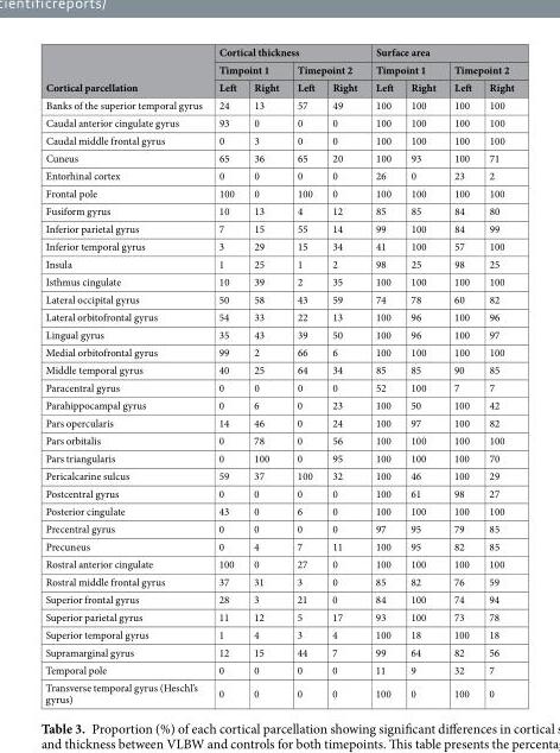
<table><thead><tr><td rowspan="3">Cortical parcellation</td><td colspan="4">Cortical thickness</td><td colspan="4">Surface area</td></tr><tr><td colspan="2">Timpoint 1</td><td colspan="2">Timepoint 2</td><td colspan="2">Timpoint 1</td><td colspan="2">Timepoint 2</td></tr><tr><td>Left</td><td>Right</td><td>Left</td><td>Right</td><td>Left</td><td>Right</td><td>Left</td><td>Right</td></tr></thead><tbody><tr><td>Banks of the superior temporal gyrus</td><td>24</td><td>13</td><td>57</td><td>49</td><td>100</td><td>100</td><td>100</td><td>100</td></tr><tr><td>Caudal anterior cingulate gyrus</td><td>93</td><td>0</td><td>0</td><td>0</td><td>100</td><td>100</td><td>100</td><td>100</td></tr><tr><td>Caudal middle frontal gyrus</td><td>0</td><td>3</td><td>0</td><td>0</td><td>100</td><td>100</td><td>100</td><td>100</td></tr><tr><td>Cuneus</td><td>65</td><td>36</td><td>65</td><td>20</td><td>100</td><td>93</td><td>100</td><td>71</td></tr><tr><td>Entorhinal cortex</td><td>0</td><td>0</td><td>0</td><td>0</td><td>26</td><td>0</td><td>23</td><td>2</td></tr><tr><td>Frontal pole</td><td>100</td><td>0</td><td>100</td><td>0</td><td>100</td><td>100</td><td>100</td><td>100</td></tr><tr><td>Fusiform gyrus</td><td>10</td><td>13</td><td>4</td><td>12</td><td>85</td><td>85</td><td>84</td><td>80</td></tr><tr><td>Inferior parietal gyrus</td><td>7</td><td>15</td><td>55</td><td>14</td><td>99</td><td>100</td><td>84</td><td>99</td></tr><tr><td>Inferior temporal gyrus</td><td>3</td><td>29</td><td>15</td><td>34</td><td>41</td><td>100</td><td>57</td><td>100</td></tr><tr><td>Insula</td><td>1</td><td>25</td><td>1</td><td>2</td><td>98</td><td>25</td><td>98</td><td>25</td></tr><tr><td>Isthmus cingulate</td><td>10</td><td>39</td><td>2</td><td>35</td><td>100</td><td>100</td><td>100</td><td>100</td></tr><tr><td>Lateral occipital gyrus</td><td>50</td><td>58</td><td>43</td><td>59</td><td>74</td><td>78</td><td>60</td><td>82</td></tr><tr><td>Lateral orbitofrontal gyrus</td><td>54</td><td>33</td><td>22</td><td>13</td><td>100</td><td>96</td><td>100</td><td>96</td></tr><tr><td>Lingual gyrus</td><td>35</td><td>43</td><td>39</td><td>50</td><td>100</td><td>96</td><td>100</td><td>97</td></tr><tr><td>Medial orbitofrontal gyrus</td><td>99</td><td>2</td><td>66</td><td>6</td><td>100</td><td>100</td><td>100</td><td>100</td></tr><tr><td>Middle temporal gyrus</td><td>40</td><td>25</td><td>64</td><td>34</td><td>85</td><td>85</td><td>90</td><td>85</td></tr><tr><td>Paracentral gyrus</td><td>0</td><td>0</td><td>0</td><td>0</td><td>52</td><td>100</td><td>7</td><td>7</td></tr><tr><td>Parahippocampal gyrus</td><td>0</td><td>6</td><td>0</td><td>23</td><td>100</td><td>50</td><td>100</td><td>42</td></tr><tr><td>Pars opercularis</td><td>14</td><td>46</td><td>0</td><td>24</td><td>100</td><td>97</td><td>100</td><td>82</td></tr><tr><td>Pars orbitalis</td><td>0</td><td>78</td><td>0</td><td>56</td><td>100</td><td>100</td><td>100</td><td>100</td></tr><tr><td>Pars triangularis</td><td>0</td><td>100</td><td>0</td><td>95</td><td>100</td><td>100</td><td>100</td><td>70</td></tr><tr><td>Pericalcarine sulcus</td><td>59</td><td>37</td><td>100</td><td>32</td><td>100</td><td>46</td><td>100</td><td>29</td></tr><tr><td>Postcentral gyrus</td><td>0</td><td>0</td><td>0</td><td>0</td><td>100</td><td>61</td><td>98</td><td>27</td></tr><tr><td>Posterior cingulate</td><td>43</td><td>0</td><td>6</td><td>0</td><td>100</td><td>100</td><td>100</td><td>100</td></tr><tr><td>Precentral gyrus</td><td>0</td><td>0</td><td>0</td><td>0</td><td>97</td><td>95</td><td>79</td><td>85</td></tr><tr><td>Precuneus</td><td>0</td><td>4</td><td>7</td><td>11</td><td>100</td><td>95</td><td>82</td><td>85</td></tr><tr><td>Rostral anterior cingulate</td><td>100</td><td>0</td><td>27</td><td>0</td><td>100</td><td>100</td><td>100</td><td>100</td></tr><tr><td>Rostral middle frontal gyrus</td><td>37</td><td>31</td><td>3</td><td>0</td><td>85</td><td>82</td><td>76</td><td>59</td></tr><tr><td>Superior frontal gyrus</td><td>28</td><td>3</td><td>21</td><td>0</td><td>84</td><td>100</td><td>74</td><td>94</td></tr><tr><td>Superior parietal gyrus</td><td>11</td><td>12</td><td>5</td><td>17</td><td>93</td><td>100</td><td>73</td><td>78</td></tr><tr><td>Superior temporal gyrus</td><td>1</td><td>4</td><td>3</td><td>4</td><td>100</td><td>18</td><td>100</td><td>18</td></tr><tr><td>Supramarginal gyrus</td><td>12</td><td>15</td><td>44</td><td>7</td><td>99</td><td>64</td><td>82</td><td>56</td></tr><tr><td>Temporal pole</td><td>0</td><td>0</td><td>0</td><td>0</td><td>11</td><td>9</td><td>32</td><td>7</td></tr><tr><td>Transverse temporal gyrus (Heschl’s gyrus)</td><td>0</td><td>0</td><td>0</td><td>0</td><td>100</td><td>0</td><td>100</td><td>0</td></tr></tbody></table>